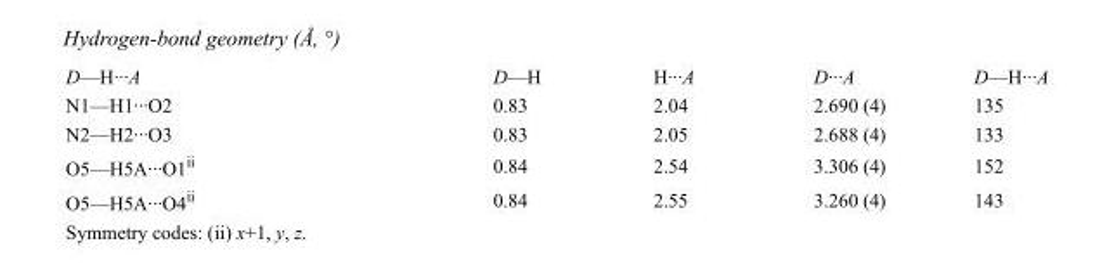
<table><tbody><tr><td>D—H···A</td><td>D—H</td><td>H···A</td><td>D···A</td><td>D—H···A</td></tr><tr><td>N1—H1···O2</td><td>0.83</td><td>2.04</td><td>2.690 (4)</td><td>135</td></tr><tr><td>N2—H2···O3</td><td>0.83</td><td>2.05</td><td>2.688 (4)</td><td>133</td></tr><tr><td>O5—H5A···O1<sup>ii</sup></td><td>0.84</td><td>2.54</td><td>3.306 (4)</td><td>152</td></tr><tr><td>O5—H5A···O4<sup>ii</sup></td><td>0.84</td><td>2.55</td><td>3.260 (4)</td><td>143</td></tr></tbody></table>